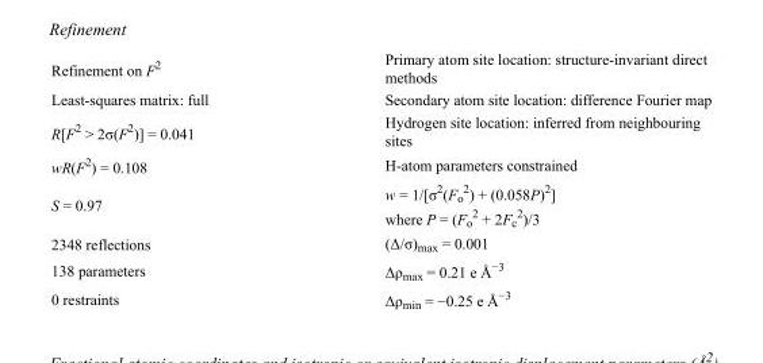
<table><tbody><tr><td>Refinement on F<sup>2</sup></td><td>Primary atom site location: structure-invariant direct methods</td></tr><tr><td>Least-squares matrix: full</td><td>Secondary atom site location: difference Fourier map</td></tr><tr><td>R[F<sup>2</sup> &gt; 2σ(F<sup>2</sup>)] = 0.041</td><td>Hydrogen site location: inferred from neighbouring sites</td></tr><tr><td>wR(F<sup>2</sup>) = 0.108</td><td>H-atom parameters constrained</td></tr><tr><td>S = 0.97</td><td>w = 1/[σ<sup>2</sup>(F<sub>o</sub> <sup>2</sup>) + (0.058P)<sup>2</sup>] where P = (F<sub>o</sub> <sup>2</sup> + 2F<sub>c</sub> <sup>2</sup>)/3</td></tr><tr><td>2348 reflections</td><td>(Δ/σ)<sub>max</sub> = 0.001</td></tr><tr><td>138 parameters</td><td>Δρ<sub>max</sub> = 0.21 e Å<sup>−3</sup></td></tr><tr><td>0 restraints</td><td>Δρ<sub>min</sub> = −0.25 e Å<sup>−3</sup></td></tr></tbody></table>